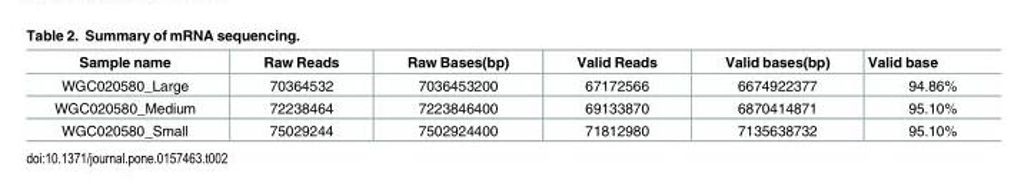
<table><thead><tr><td>Sample name</td><td>Raw Reads</td><td>Raw Bases(bp)</td><td>Valid Reads</td><td>Valid bases(bp)</td><td>Valid base</td></tr></thead><tbody><tr><td>WGC020580_Large</td><td>70364532</td><td>7036453200</td><td>67172566</td><td>6674922377</td><td>94.86%</td></tr><tr><td>WGC020580_Medium</td><td>72238464</td><td>7223846400</td><td>69133870</td><td>6870414871</td><td>95.10%</td></tr><tr><td>WGC020580_Small</td><td>75029244</td><td>7502924400</td><td>71812980</td><td>7135638732</td><td>95.10%</td></tr></tbody></table>